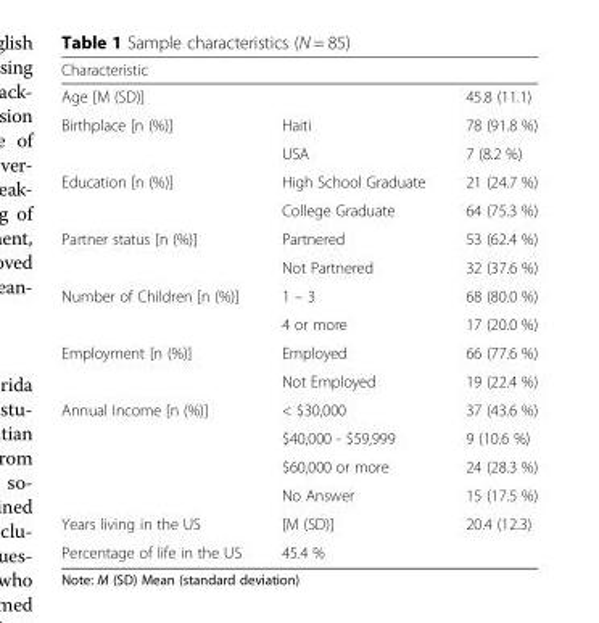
<table><thead><tr><td colspan="3">Characteristic</td></tr><tr><td>Age [M (SD)]</td><td></td><td>45.8 (11.1)</td></tr></thead><tbody><tr><td rowspan="2">Birthplace [n (%)]</td><td>Haiti</td><td>78 (91.8 %)</td></tr><tr><td>USA</td><td>7 (8.2 %)</td></tr><tr><td rowspan="2">Education [n (%)]</td><td>High School Graduate</td><td>21 (24.7 %)</td></tr><tr><td>College Graduate</td><td>64 (75.3 %)</td></tr><tr><td rowspan="2">Partner status [n (%)]</td><td>Partnered</td><td>53 (62.4 %)</td></tr><tr><td>Not Partnered</td><td>32 (37.6 %)</td></tr><tr><td rowspan="2">Number of Children [n (%)]</td><td>1 – 3</td><td>68 (80.0 %)</td></tr><tr><td>4 or more</td><td>17 (20.0 %)</td></tr><tr><td rowspan="2">Employment [n (%)]</td><td>Employed</td><td>66 (77.6 %)</td></tr><tr><td>Not Employed</td><td>19 (22.4 %)</td></tr><tr><td rowspan="4">Annual Income [n (%)]</td><td>&lt; $30,000</td><td>37 (43.6 %)</td></tr><tr><td>$40,000 - $59,999</td><td>9 (10.6 %)</td></tr><tr><td>$60,000 or more</td><td>24 (28.3 %)</td></tr><tr><td>No Answer</td><td>15 (17.5 %)</td></tr><tr><td>Years living in the US</td><td>[M (SD)]</td><td>20.4 (12.3)</td></tr><tr><td>Percentage of life in the US</td><td>45.4 %</td><td></td></tr></tbody></table>